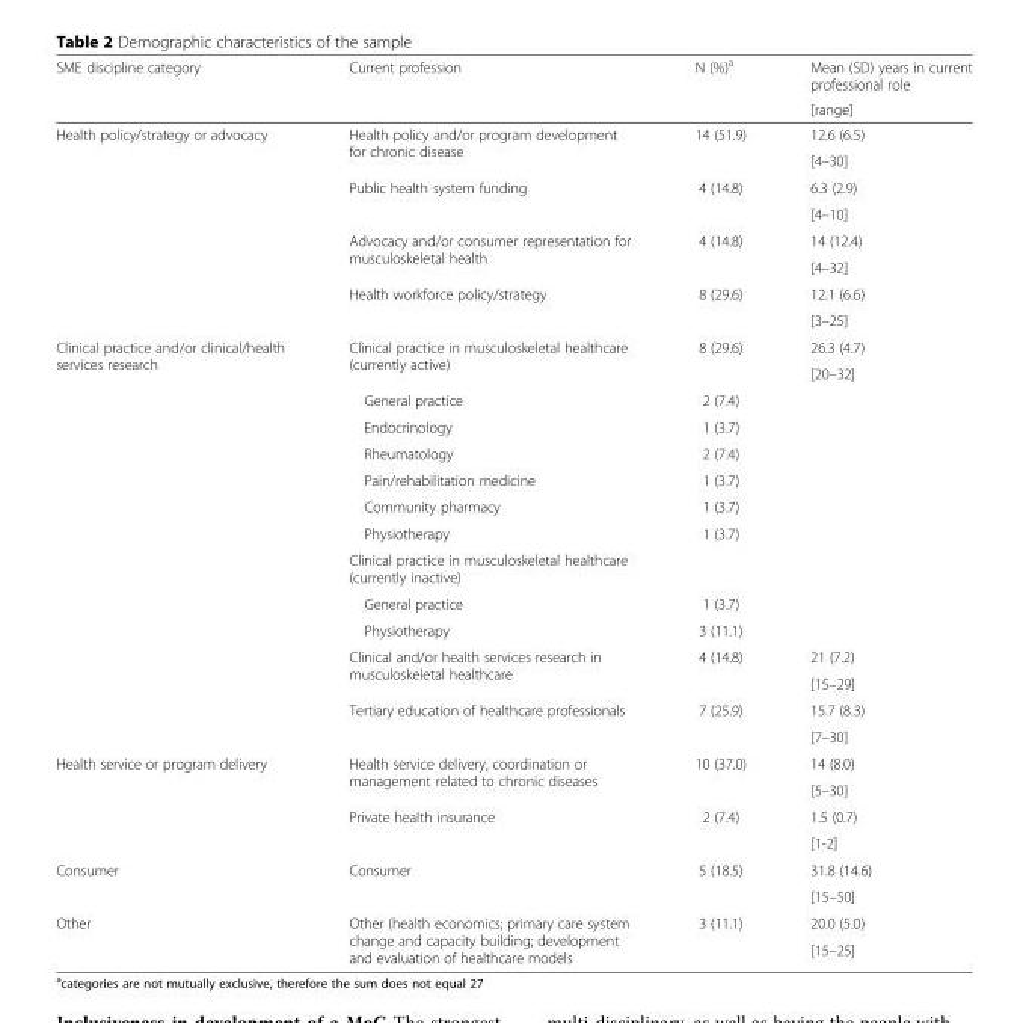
<table><thead><tr><td rowspan="2">SME discipline category</td><td rowspan="2">Current profession</td><td rowspan="2">N (%)<sup>a</sup></td><td rowspan="2">Mean (SD) years in current professional role [range]</td></tr><tr></tr></thead><tbody><tr><td rowspan="8">Health policy/strategy or advocacy</td><td rowspan="2">Health policy and/or program development for chronic disease</td><td rowspan="2">14 (51.9)</td><td>12.6 (6.5)</td></tr><tr><td>[4–30]</td></tr><tr><td rowspan="2">Public health system funding</td><td rowspan="2">4 (14.8)</td><td>6.3 (2.9)</td></tr><tr><td>[4–10]</td></tr><tr><td rowspan="2">Advocacy and/or consumer representation for musculoskeletal health</td><td rowspan="2">4 (14.8)</td><td>14 (12.4)</td></tr><tr><td>[4–32]</td></tr><tr><td rowspan="2">Health workforce policy/strategy</td><td rowspan="2">8 (29.6)</td><td>12.1 (6.6)</td></tr><tr><td>[3–25]</td></tr><tr><td rowspan="15">Clinical practice and/or clinical/health services research</td><td rowspan="2">Clinical practice in musculoskeletal healthcare (currently active)</td><td rowspan="2">8 (29.6)</td><td>26.3 (4.7)</td></tr><tr><td>[20–32]</td></tr><tr><td>General practice</td><td>2 (7.4)</td><td rowspan="9"></td></tr><tr><td>Endocrinology</td><td>1 (3.7)</td></tr><tr><td>Rheumatology</td><td>2 (7.4)</td></tr><tr><td>Pain/rehabilitation medicine</td><td>1 (3.7)</td></tr><tr><td>Community pharmacy</td><td>1 (3.7)</td></tr><tr><td>Physiotherapy</td><td>1 (3.7)</td></tr><tr><td>Clinical practice in musculoskeletal healthcare (currently inactive)</td><td></td></tr><tr><td>General practice</td><td>1 (3.7)</td></tr><tr><td>Physiotherapy</td><td>3 (11.1)</td></tr><tr><td rowspan="2">Clinical and/or health services research in musculoskeletal healthcare</td><td rowspan="2">4 (14.8)</td><td>21 (7.2)</td></tr><tr><td>[15–29]</td></tr><tr><td rowspan="2">Tertiary education of healthcare professionals</td><td rowspan="2">7 (25.9)</td><td>15.7 (8.3)</td></tr><tr><td>[7–30]</td></tr><tr><td rowspan="4">Health service or program delivery</td><td rowspan="2">Health service delivery, coordination or management related to chronic diseases</td><td rowspan="2">10 (37.0)</td><td>14 (8.0)</td></tr><tr><td>[5–30]</td></tr><tr><td rowspan="2">Private health insurance</td><td rowspan="2">2 (7.4)</td><td>1.5 (0.7)</td></tr><tr><td>[1-2]</td></tr><tr><td rowspan="2">Consumer</td><td rowspan="2">Consumer</td><td rowspan="2">5 (18.5)</td><td>31.8 (14.6)</td></tr><tr><td>[15–50]</td></tr><tr><td rowspan="2">Other</td><td rowspan="2">Other (health economics; primary care system change and capacity building; development and evaluation of healthcare models</td><td rowspan="2">3 (11.1)</td><td>20.0 (5.0)</td></tr><tr><td>[15–25]</td></tr></tbody></table>